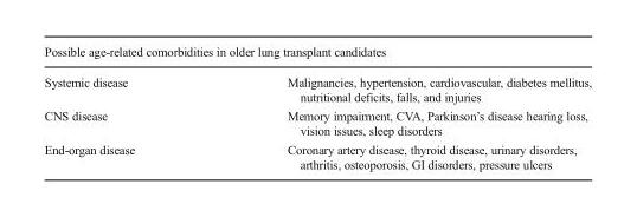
<table><thead><tr><td colspan="2">Possible age-related comorbidities in older lung transplant candidates</td></tr><tr><td>Systemic disease</td><td>Malignancies, hypertension, cardiovascular, diabetes mellitus, nutritional deficits, falls, and injuries</td></tr></thead><tbody><tr><td>CNS disease</td><td>Memory impairment, CVA, Parkinson’s disease hearing loss, vision issues, sleep disorders</td></tr><tr><td>End-organ disease</td><td>Coronary artery disease, thyroid disease, urinary disorders, arthritis, osteoporosis, GI disorders, pressure ulcers</td></tr></tbody></table>